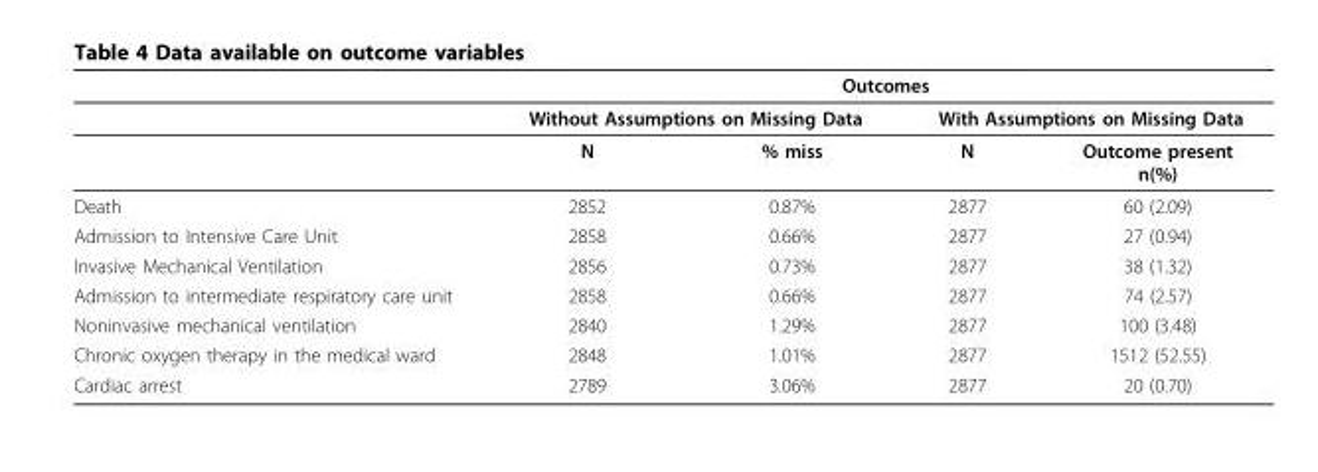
<table><thead><tr><td rowspan="3"></td><td colspan="4">Outcomes</td></tr><tr><td colspan="2">Without Assumptions on Missing Data</td><td colspan="2">With Assumptions on Missing Data</td></tr><tr><td>N</td><td>% miss</td><td>N</td><td>Outcome present n(%)</td></tr></thead><tbody><tr><td>Death</td><td>2852</td><td>0.87%</td><td>2877</td><td>60 (2.09)</td></tr><tr><td>Admission to Intensive Care Unit</td><td>2858</td><td>0.66%</td><td>2877</td><td>27 (0.94)</td></tr><tr><td>Invasive Mechanical Ventilation</td><td>2856</td><td>0.73%</td><td>2877</td><td>38 (1.32)</td></tr><tr><td>Admission to intermediate respiratory care unit</td><td>2858</td><td>0.66%</td><td>2877</td><td>74 (2.57)</td></tr><tr><td>Noninvasive mechanical ventilation</td><td>2840</td><td>1.29%</td><td>2877</td><td>100 (3.48)</td></tr><tr><td>Chronic oxygen therapy in the medical ward</td><td>2848</td><td>1.01%</td><td>2877</td><td>1512 (52.55)</td></tr><tr><td>Cardiac arrest</td><td>2789</td><td>3.06%</td><td>2877</td><td>20 (0.70)</td></tr></tbody></table>